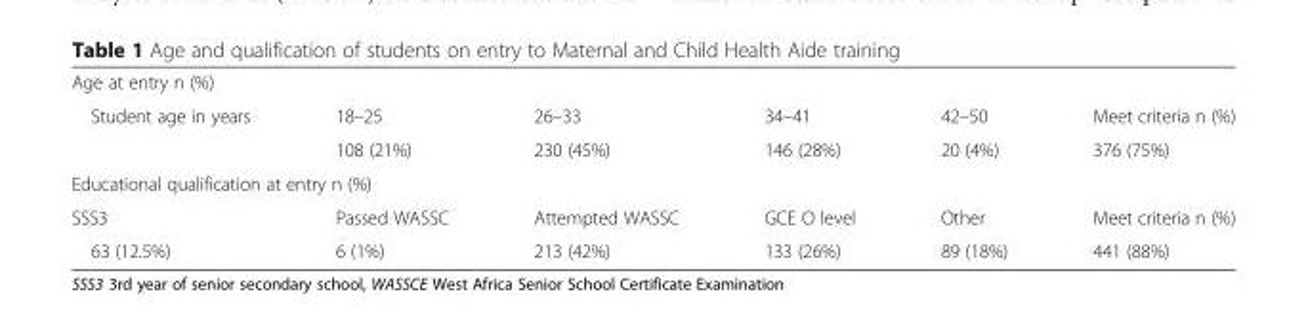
<table><tbody><tr><td colspan="6">Age at entry n (%)</td></tr><tr><td rowspan="2">Student age in years</td><td>18–25</td><td>26–33</td><td>34–41</td><td>42–50</td><td>Meet criteria n (%)</td></tr><tr><td>108 (21%)</td><td>230 (45%)</td><td>146 (28%)</td><td>20 (4%)</td><td>376 (75%)</td></tr><tr><td colspan="6">Educational qualification at entry n (%)</td></tr><tr><td>SSS3</td><td>Passed WASSC</td><td>Attempted WASSC</td><td>GCE O level</td><td>Other</td><td>Meet criteria n (%)</td></tr><tr><td>63 (12.5%)</td><td>6 (1%)</td><td>213 (42%)</td><td>133 (26%)</td><td>89 (18%)</td><td>441 (88%)</td></tr></tbody></table>